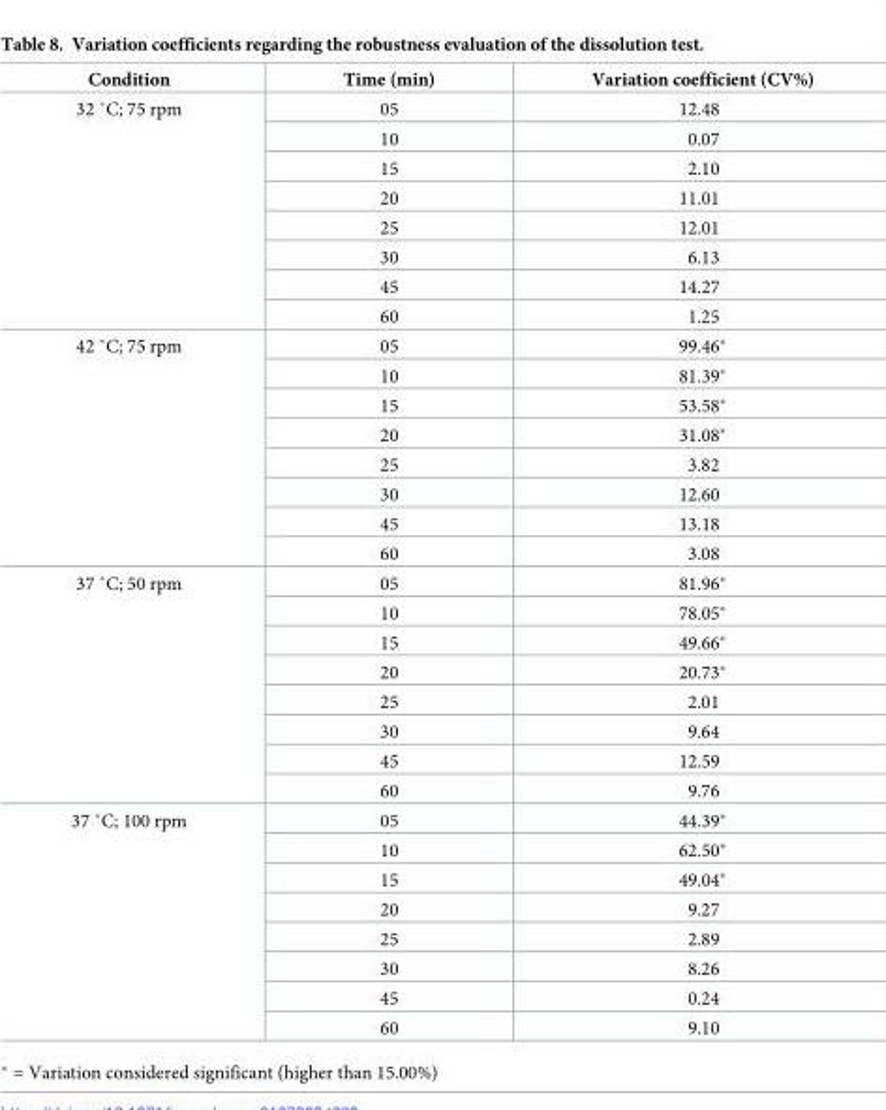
<table><thead><tr><td>Condition</td><td>Time (min)</td><td>Variation coefficient (CV%)</td></tr></thead><tbody><tr><td rowspan="8">32 ˚C; 75 rpm</td><td>05</td><td>12.48</td></tr><tr><td>10</td><td>0.07</td></tr><tr><td>15</td><td>2.10</td></tr><tr><td>20</td><td>11.01</td></tr><tr><td>25</td><td>12.01</td></tr><tr><td>30</td><td>6.13</td></tr><tr><td>45</td><td>14.27</td></tr><tr><td>60</td><td>1.25</td></tr><tr><td rowspan="8">42 ˚C; 75 rpm</td><td>05</td><td>99.46*</td></tr><tr><td>10</td><td>81.39*</td></tr><tr><td>15</td><td>53.58*</td></tr><tr><td>20</td><td>31.08*</td></tr><tr><td>25</td><td>3.82</td></tr><tr><td>30</td><td>12.60</td></tr><tr><td>45</td><td>13.18</td></tr><tr><td>60</td><td>3.08</td></tr><tr><td rowspan="8">37 ˚C; 50 rpm</td><td>05</td><td>81.96*</td></tr><tr><td>10</td><td>78.05*</td></tr><tr><td>15</td><td>49.66*</td></tr><tr><td>20</td><td>20.73*</td></tr><tr><td>25</td><td>2.01</td></tr><tr><td>30</td><td>9.64</td></tr><tr><td>45</td><td>12.59</td></tr><tr><td>60</td><td>9.76</td></tr><tr><td rowspan="8">37 ˚C; 100 rpm</td><td>05</td><td>44.39*</td></tr><tr><td>10</td><td>62.50*</td></tr><tr><td>15</td><td>49.04*</td></tr><tr><td>20</td><td>9.27</td></tr><tr><td>25</td><td>2.89</td></tr><tr><td>30</td><td>8.26</td></tr><tr><td>45</td><td>0.24</td></tr><tr><td>60</td><td>9.10</td></tr></tbody></table>